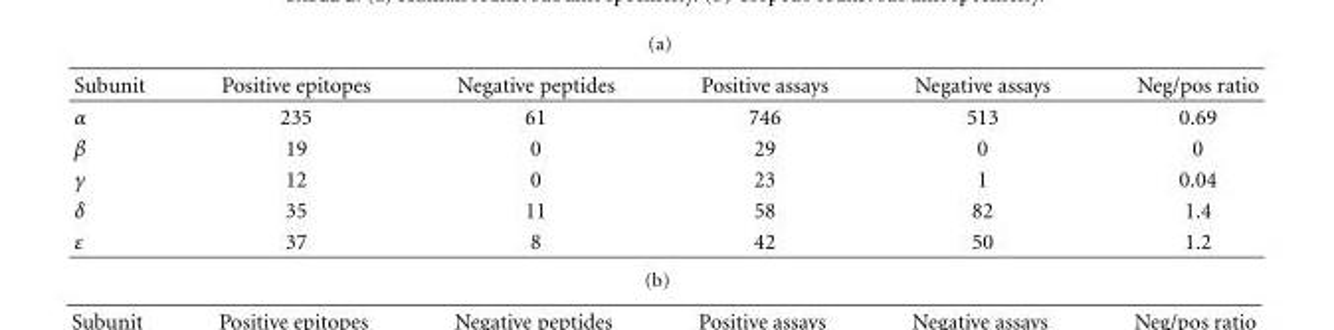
<table><thead><tr><td>Subunit</td><td>Positive epitopes</td><td>Negative peptides</td><td>Positive assays</td><td>Negative assays</td><td>Neg/pos ratio</td></tr></thead><tbody><tr><td>α</td><td>235</td><td>61</td><td>746</td><td>513</td><td>0.69</td></tr><tr><td>β</td><td>19</td><td>0</td><td>29</td><td>0</td><td>0</td></tr><tr><td>γ</td><td>12</td><td>0</td><td>23</td><td>1</td><td>0.04</td></tr><tr><td>δ</td><td>35</td><td>11</td><td>58</td><td>82</td><td>1.4</td></tr><tr><td>ε</td><td>37</td><td>8</td><td>42</td><td>50</td><td>1.2</td></tr></tbody></table>